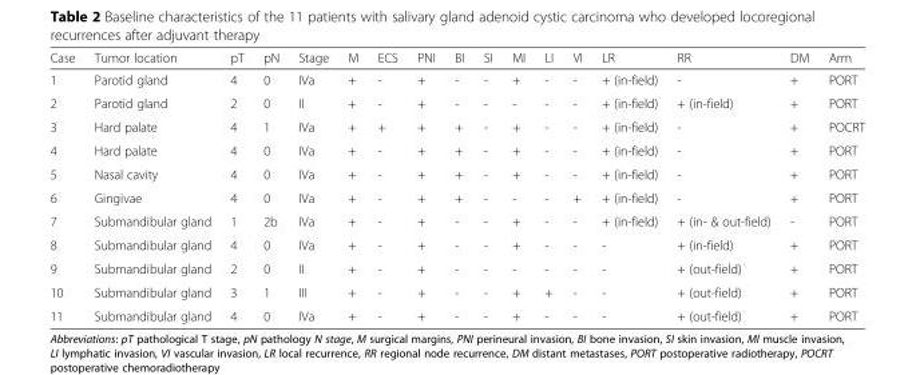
<table><thead><tr><td>Case</td><td>Tumor location</td><td>pT</td><td>pN</td><td>Stage</td><td>M</td><td>ECS</td><td>PNI</td><td>BI</td><td>SI</td><td>MI</td><td>LI</td><td>VI</td><td>LR</td><td>RR</td><td>DM</td><td>Arm</td></tr></thead><tbody><tr><td>1</td><td>Parotid gland</td><td>4</td><td>0</td><td>IVa</td><td>+</td><td>-</td><td>+</td><td>-</td><td>-</td><td>+</td><td>-</td><td>-</td><td>+ (in-field)</td><td>-</td><td>+</td><td>PORT</td></tr><tr><td>2</td><td>Parotid gland</td><td>2</td><td>0</td><td>II</td><td>+</td><td>-</td><td>+</td><td>-</td><td>-</td><td>-</td><td>-</td><td>-</td><td>+ (in-field)</td><td>+ (in-field)</td><td>+</td><td>PORT</td></tr><tr><td>3</td><td>Hard palate</td><td>4</td><td>1</td><td>IVa</td><td>+</td><td>+</td><td>+</td><td>+</td><td>-</td><td>+</td><td>-</td><td>-</td><td>+ (in-field)</td><td>-</td><td>+</td><td>POCRT</td></tr><tr><td>4</td><td>Hard palate</td><td>4</td><td>0</td><td>IVa</td><td>+</td><td>-</td><td>+</td><td>+</td><td>-</td><td>+</td><td>-</td><td>-</td><td>+ (in-field)</td><td>-</td><td>+</td><td>PORT</td></tr><tr><td>5</td><td>Nasal cavity</td><td>4</td><td>0</td><td>IVa</td><td>+</td><td>-</td><td>+</td><td>+</td><td>-</td><td>+</td><td>-</td><td>-</td><td>+ (in-field)</td><td>-</td><td>+</td><td>PORT</td></tr><tr><td>6</td><td>Gingivae</td><td>4</td><td>0</td><td>IVa</td><td>+</td><td>-</td><td>+</td><td>+</td><td>-</td><td>-</td><td>-</td><td>+</td><td>+ (in-field)</td><td>-</td><td>+</td><td>PORT</td></tr><tr><td>7</td><td>Submandibular gland</td><td>1</td><td>2b</td><td>IVa</td><td>+</td><td>-</td><td>+</td><td>-</td><td>-</td><td>+</td><td>-</td><td>-</td><td>+ (in-field)</td><td>+ (in- &amp; out-field)</td><td>-</td><td>PORT</td></tr><tr><td>8</td><td>Submandibular gland</td><td>4</td><td>0</td><td>IVa</td><td>+</td><td>-</td><td>+</td><td>-</td><td>-</td><td>+</td><td>-</td><td>-</td><td>-</td><td>+ (in-field)</td><td>+</td><td>PORT</td></tr><tr><td>9</td><td>Submandibular gland</td><td>2</td><td>0</td><td>II</td><td>+</td><td>-</td><td>+</td><td>-</td><td>-</td><td>-</td><td>-</td><td>-</td><td>-</td><td>+ (out-field)</td><td>+</td><td>PORT</td></tr><tr><td>10</td><td>Submandibular gland</td><td>3</td><td>1</td><td>III</td><td>+</td><td>-</td><td>+</td><td>-</td><td>-</td><td>+</td><td>+</td><td>-</td><td>-</td><td>+ (out-field)</td><td>+</td><td>PORT</td></tr><tr><td>11</td><td>Submandibular gland</td><td>4</td><td>0</td><td>IVa</td><td>+</td><td>-</td><td>+</td><td>-</td><td>-</td><td>+</td><td>-</td><td>-</td><td>-</td><td>+ (out-field)</td><td>+</td><td>PORT</td></tr></tbody></table>